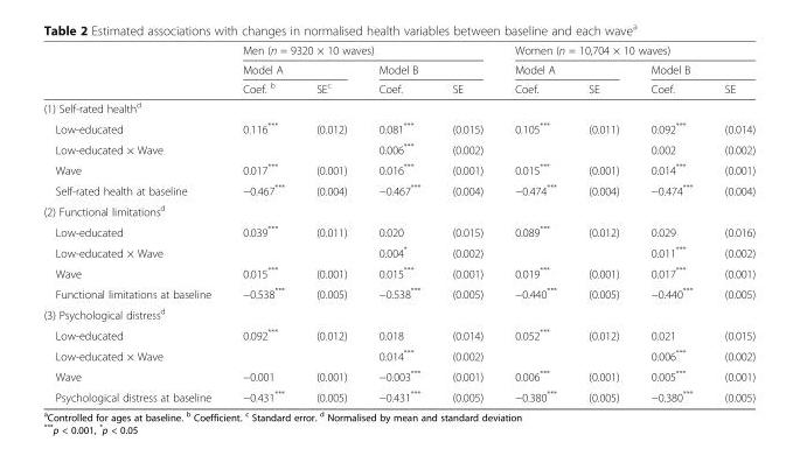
<table><thead><tr><td rowspan="3"></td><td colspan="4">Men (n = 9320 × 10 waves)</td><td colspan="4">Women (n = 10,704 × 10 waves)</td></tr><tr><td colspan="2">Model A</td><td colspan="2">Model B</td><td colspan="2">Model A</td><td colspan="2">Model B</td></tr><tr><td>Coef. <sup>b</sup></td><td>SE<sup>c</sup></td><td>Coef.</td><td>SE</td><td>Coef.</td><td>SE</td><td>Coef.</td><td>SE</td></tr></thead><tbody><tr><td colspan="9">(1) Self-rated health<sup>d</sup></td></tr><tr><td>Low-educated</td><td>0.116***</td><td>(0.012)</td><td>0.081***</td><td>(0.015)</td><td>0.105***</td><td>(0.011)</td><td>0.092***</td><td>(0.014)</td></tr><tr><td>Low-educated × Wave</td><td></td><td></td><td>0.006***</td><td>(0.002)</td><td></td><td></td><td>0.002</td><td>(0.002)</td></tr><tr><td>Wave</td><td>0.017***</td><td>(0.001)</td><td>0.016***</td><td>(0.001)</td><td>0.015***</td><td>(0.001)</td><td>0.014***</td><td>(0.001)</td></tr><tr><td>Self-rated health at baseline</td><td>−0.467***</td><td>(0.004)</td><td>−0.467***</td><td>(0.004)</td><td>−0.474***</td><td>(0.004)</td><td>−0.474***</td><td>(0.004)</td></tr><tr><td colspan="9">(2) Functional limitations<sup>d</sup></td></tr><tr><td>Low-educated</td><td>0.039***</td><td>(0.011)</td><td>0.020</td><td>(0.015)</td><td>0.089***</td><td>(0.012)</td><td>0.029</td><td>(0.016)</td></tr><tr><td>Low-educated × Wave</td><td></td><td></td><td>0.004*</td><td>(0.002)</td><td></td><td></td><td>0.011***</td><td>(0.002)</td></tr><tr><td>Wave</td><td>0.015***</td><td>(0.001)</td><td>0.015***</td><td>(0.001)</td><td>0.019***</td><td>(0.001)</td><td>0.017***</td><td>(0.001)</td></tr><tr><td>Functional limitations at baseline</td><td>−0.538***</td><td>(0.005)</td><td>−0.538***</td><td>(0.005)</td><td>−0.440***</td><td>(0.005)</td><td>−0.440***</td><td>(0.005)</td></tr><tr><td colspan="9">(3) Psychological distress<sup>d</sup></td></tr><tr><td>Low-educated</td><td>0.092***</td><td>(0.012)</td><td>0.018</td><td>(0.014)</td><td>0.052***</td><td>(0.012)</td><td>0.021</td><td>(0.015)</td></tr><tr><td>Low-educated × Wave</td><td></td><td></td><td>0.014***</td><td>(0.002)</td><td></td><td></td><td>0.006***</td><td>(0.002)</td></tr><tr><td>Wave</td><td>−0.001</td><td>(0.001)</td><td>−0.003***</td><td>(0.001)</td><td>0.006***</td><td>(0.001)</td><td>0.005***</td><td>(0.001)</td></tr><tr><td>Psychological distress at baseline</td><td>−0.431***</td><td>(0.005)</td><td>−0.431***</td><td>(0.005)</td><td>−0.380***</td><td>(0.005)</td><td>−0.380***</td><td>(0.005)</td></tr></tbody></table>